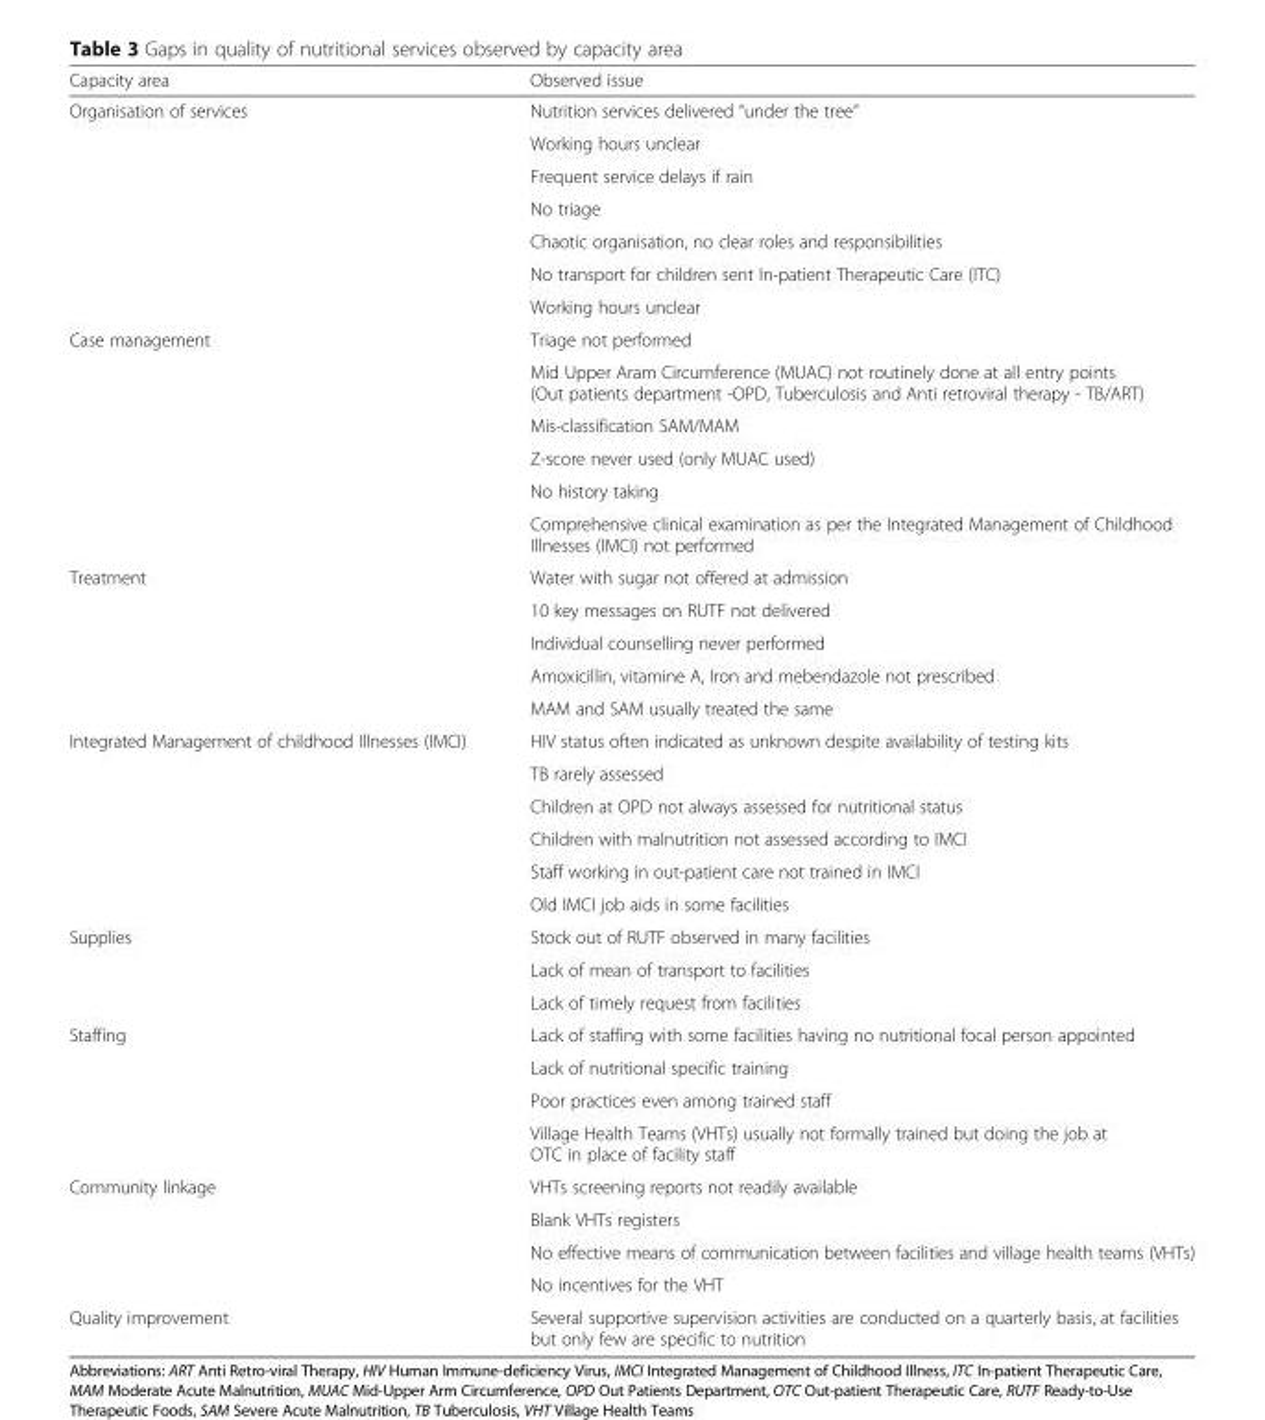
<table><thead><tr><td>Capacity area</td><td>Observed issue</td></tr></thead><tbody><tr><td rowspan="7">Organisation of services</td><td>Nutrition services delivered “under the tree”</td></tr><tr><td>Working hours unclear</td></tr><tr><td>Frequent service delays if rain</td></tr><tr><td>No triage</td></tr><tr><td>Chaotic organisation, no clear roles and responsibilities</td></tr><tr><td>No transport for children sent In-patient Therapeutic Care (ITC)</td></tr><tr><td>Working hours unclear</td></tr><tr><td rowspan="6">Case management</td><td>Triage not performed</td></tr><tr><td>Mid Upper Aram Circumference (MUAC) not routinely done at all entry points (Out patients department -OPD, Tuberculosis and Anti retroviral therapy - TB/ART)</td></tr><tr><td>Mis-classification SAM/MAM</td></tr><tr><td>Z-score never used (only MUAC used)</td></tr><tr><td>No history taking</td></tr><tr><td>Comprehensive clinical examination as per the Integrated Management of Childhood Illnesses (IMCI) not performed</td></tr><tr><td rowspan="5">Treatment</td><td>Water with sugar not offered at admission</td></tr><tr><td>10 key messages on RUTF not delivered</td></tr><tr><td>Individual counselling never performed</td></tr><tr><td>Amoxicillin, vitamine A, Iron and mebendazole not prescribed</td></tr><tr><td>MAM and SAM usually treated the same</td></tr><tr><td rowspan="6">Integrated Management of childhood Illnesses (IMCI)</td><td>HIV status often indicated as unknown despite availability of testing kits</td></tr><tr><td>TB rarely assessed</td></tr><tr><td>Children at OPD not always assessed for nutritional status</td></tr><tr><td>Children with malnutrition not assessed according to IMCI</td></tr><tr><td>Staff working in out-patient care not trained in IMCI</td></tr><tr><td>Old IMCI job aids in some facilities</td></tr><tr><td rowspan="3">Supplies</td><td>Stock out of RUTF observed in many facilities</td></tr><tr><td>Lack of mean of transport to facilities</td></tr><tr><td>Lack of timely request from facilities</td></tr><tr><td rowspan="4">Staffing</td><td>Lack of staffing with some facilities having no nutritional focal person appointed</td></tr><tr><td>Lack of nutritional specific training</td></tr><tr><td>Poor practices even among trained staff</td></tr><tr><td>Village Health Teams (VHTs) usually not formally trained but doing the job at OTC in place of facility staff</td></tr><tr><td rowspan="4">Community linkage</td><td>VHTs screening reports not readily available</td></tr><tr><td>Blank VHTs registers</td></tr><tr><td>No effective means of communication between facilities and village health teams (VHTs)</td></tr><tr><td>No incentives for the VHT</td></tr><tr><td>Quality improvement</td><td>Several supportive supervision activities are conducted on a quarterly basis, at facilities but only few are specific to nutrition</td></tr></tbody></table>